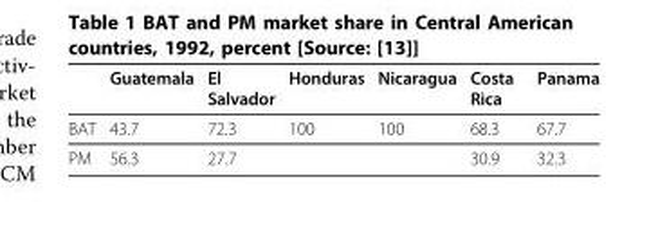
<table><thead><tr><td></td><td>Guatemala</td><td>El Salvador</td><td>Honduras</td><td>Nicaragua</td><td>Costa Rica</td><td>Panama</td></tr></thead><tbody><tr><td>BAT</td><td>43.7</td><td>72.3</td><td>100</td><td>100</td><td>68.3</td><td>67.7</td></tr><tr><td>PM</td><td>56.3</td><td>27.7</td><td></td><td></td><td>30.9</td><td>32.3</td></tr></tbody></table>